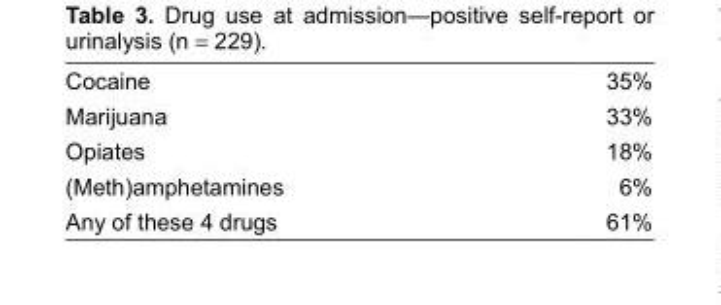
<table><tbody><tr><td>Cocaine</td><td>35%</td></tr><tr><td>Marijuana</td><td>33%</td></tr><tr><td>Opiates</td><td>18%</td></tr><tr><td>(Meth)amphetamines</td><td>6%</td></tr><tr><td>Any of these 4 drugs</td><td>61%</td></tr></tbody></table>